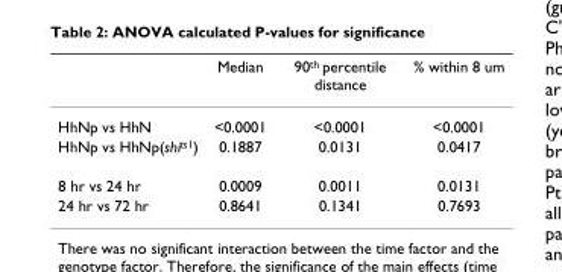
<table><thead><tr><td></td><td>Median</td><td>90<sup>th</sup> percentile distance</td><td>% within 8 um</td></tr></thead><tbody><tr><td>HhNp vs HhN</td><td>&lt;0.0001</td><td>&lt;0.0001</td><td>&lt;0.0001</td></tr><tr><td>HhNp vs HhNp(shi<sup>ts1</sup>)</td><td>0.1887</td><td>0.0131</td><td>0.0417</td></tr><tr><td>8 hr vs 24 hr</td><td>0.0009</td><td>0.0011</td><td>0.0131</td></tr><tr><td>24 hr vs 72 hr</td><td>0.8641</td><td>0.1341</td><td>0.7693</td></tr></tbody></table>